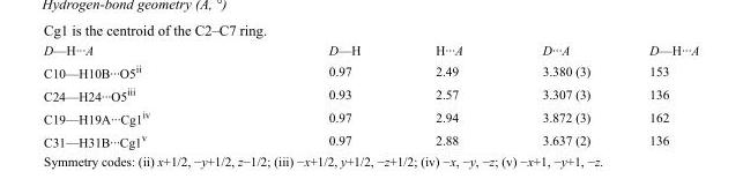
<table><tbody><tr><td>D—H···A</td><td>D—H</td><td>H···A</td><td>D···A</td><td>D—H···A</td></tr><tr><td>C10—H10B···O5<sup>ii</sup></td><td>0.97</td><td>2.49</td><td>3.380 (3)</td><td>153</td></tr><tr><td>C24—H24···O5<sup>iii</sup></td><td>0.93</td><td>2.57</td><td>3.307 (3)</td><td>136</td></tr><tr><td>C19—H19A···Cg1<sup>iv</sup></td><td>0.97</td><td>2.94</td><td>3.872 (3)</td><td>162</td></tr><tr><td>C31—H31B···Cg1<sup>v</sup></td><td>0.97</td><td>2.88</td><td>3.637 (2)</td><td>136</td></tr></tbody></table>